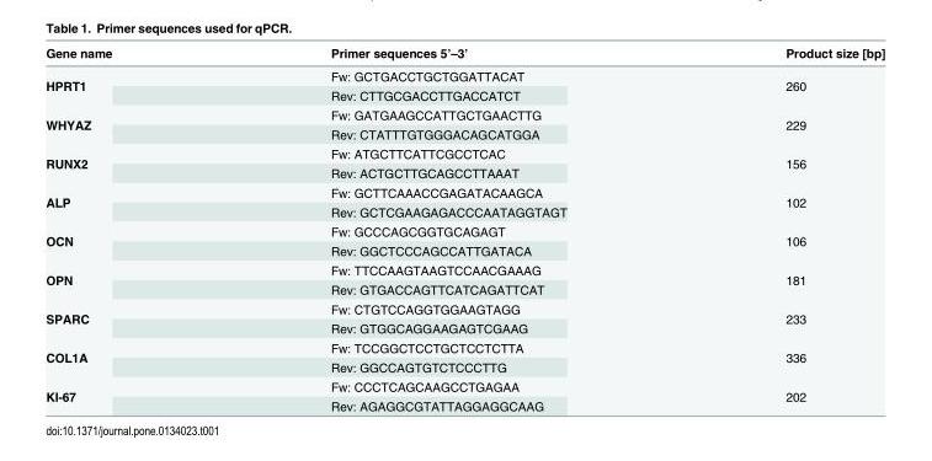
<table><thead><tr><td>Gene name</td><td>Primer sequences 5’–3’</td><td>Product size [bp]</td></tr></thead><tbody><tr><td rowspan="2">HPRT1</td><td>Fw: GCTGACCTGCTGGATTACAT</td><td rowspan="2">260</td></tr><tr><td>Rev: CTTGCGACCTTGACCATCT</td></tr><tr><td rowspan="2">WHYAZ</td><td>Fw: GATGAAGCCATTGCTGAACTTG</td><td rowspan="2">229</td></tr><tr><td>Rev: CTATTTGTGGGACAGCATGGA</td></tr><tr><td rowspan="2">RUNX2</td><td>Fw: ATGCTTCATTCGCCTCAC</td><td rowspan="2">156</td></tr><tr><td>Rev: ACTGCTTGCAGCCTTAAAT</td></tr><tr><td rowspan="2">ALP</td><td>Fw: GCTTCAAACCGAGATACAAGCA</td><td rowspan="2">102</td></tr><tr><td>Rev: GCTCGAAGAGACCCAATAGGTAGT</td></tr><tr><td rowspan="2">OCN</td><td>Fw: GCCCAGCGGTGCAGAGT</td><td rowspan="2">106</td></tr><tr><td>Rev: GGCTCCCAGCCATTGATACA</td></tr><tr><td rowspan="2">OPN</td><td>Fw: TTCCAAGTAAGTCCAACGAAAG</td><td rowspan="2">181</td></tr><tr><td>Rev: GTGACCAGTTCATCAGATTCAT</td></tr><tr><td rowspan="2">SPARC</td><td>Fw: CTGTCCAGGTGGAAGTAGG</td><td rowspan="2">233</td></tr><tr><td>Rev: GTGGCAGGAAGAGTCGAAG</td></tr><tr><td rowspan="2">COL1A</td><td>Fw: TCCGGCTCCTGCTCCTCTTA</td><td rowspan="2">336</td></tr><tr><td>Rev: GGCCAGTGTCTCCCTTG</td></tr><tr><td rowspan="2">KI-67</td><td>Fw: CCCTCAGCAAGCCTGAGAA</td><td rowspan="2">202</td></tr><tr><td>Rev: AGAGGCGTATTAGGAGGCAAG</td></tr></tbody></table>